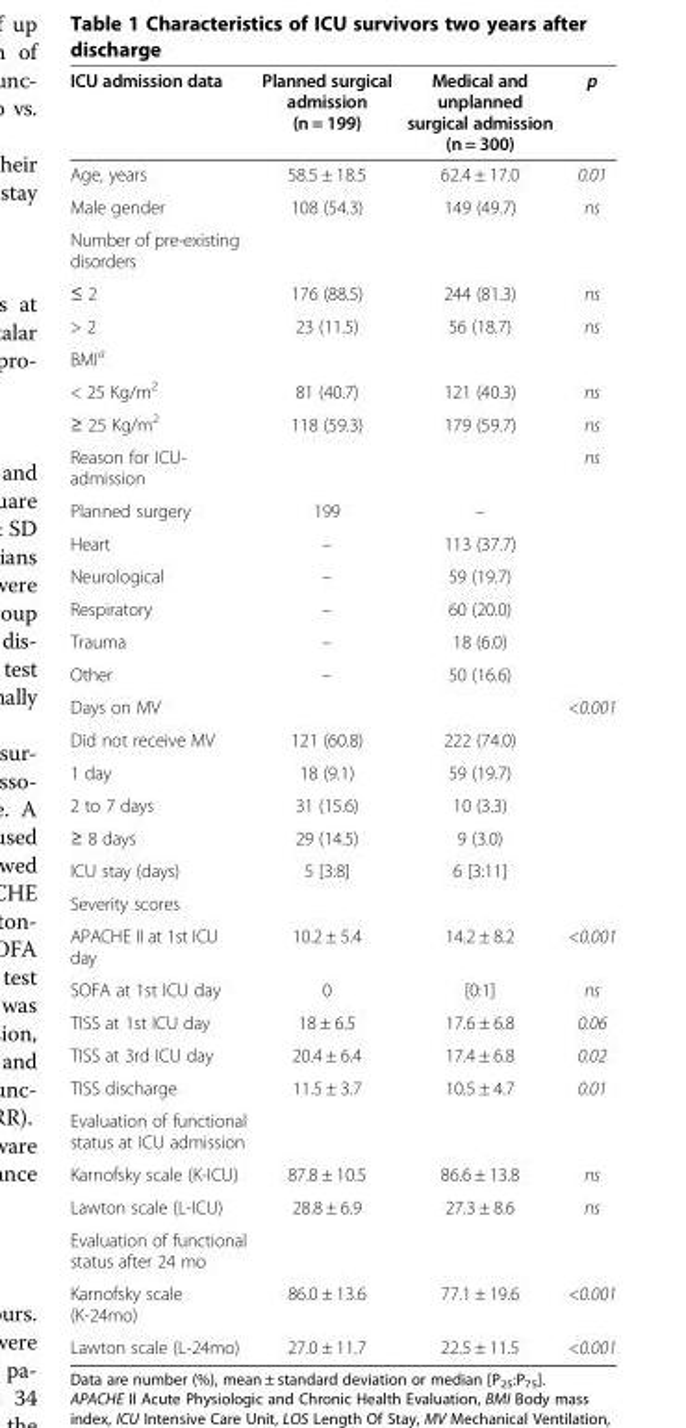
<table><thead><tr><td>ICU admission data</td><td>Planned surgical admission (n = 199)</td><td>Medical and unplanned surgical admission (n = 300)</td><td>p</td></tr></thead><tbody><tr><td>Age, years</td><td>58.5 ± 18.5</td><td>62.4 ± 17.0</td><td>0.01</td></tr><tr><td>Male gender</td><td>108 (54.3)</td><td>149 (49.7)</td><td>ns</td></tr><tr><td colspan="4">Number of pre-existing disorders</td></tr><tr><td>≤ 2</td><td>176 (88.5)</td><td>244 (81.3)</td><td>ns</td></tr><tr><td>&gt; 2</td><td>23 (11.5)</td><td>56 (18.7)</td><td>ns</td></tr><tr><td colspan="4">BMI<sup>a</sup></td></tr><tr><td>&lt; 25 Kg/m<sup>2</sup></td><td>81 (40.7)</td><td>121 (40.3)</td><td>ns</td></tr><tr><td>≥ 25 Kg/m<sup>2</sup></td><td>118 (59.3)</td><td>179 (59.7)</td><td>ns</td></tr><tr><td>Reason for ICU- admission</td><td></td><td></td><td>ns</td></tr><tr><td>Planned surgery</td><td>199</td><td>–</td><td></td></tr><tr><td>Heart</td><td>–</td><td>113 (37.7)</td><td></td></tr><tr><td>Neurological</td><td>–</td><td>59 (19.7)</td><td></td></tr><tr><td>Respiratory</td><td>–</td><td>60 (20.0)</td><td></td></tr><tr><td>Trauma</td><td>–</td><td>18 (6.0)</td><td></td></tr><tr><td>Other</td><td>–</td><td>50 (16.6)</td><td></td></tr><tr><td>Days on MV</td><td></td><td></td><td>&lt;0.001</td></tr><tr><td>Did not receive MV</td><td>121 (60.8)</td><td>222 (74.0)</td><td></td></tr><tr><td>1 day</td><td>18 (9.1)</td><td>59 (19.7)</td><td></td></tr><tr><td>2 to 7 days</td><td>31 (15.6)</td><td>10 (3.3)</td><td></td></tr><tr><td>≥ 8 days</td><td>29 (14.5)</td><td>9 (3.0)</td><td></td></tr><tr><td>ICU stay (days)</td><td>5 [3:8]</td><td>6 [3:11]</td><td></td></tr><tr><td colspan="4">Severity scores</td></tr><tr><td>APACHE II at 1st ICU day</td><td>10.2 ± 5.4</td><td>14.2 ± 8.2</td><td>&lt;0.001</td></tr><tr><td>SOFA at 1st ICU day</td><td>0</td><td>[0:1]</td><td>ns</td></tr><tr><td>TISS at 1st ICU day</td><td>18 ± 6.5</td><td>17.6 ± 6.8</td><td>0.06</td></tr><tr><td>TISS at 3rd ICU day</td><td>20.4 ± 6.4</td><td>17.4 ± 6.8</td><td>0.02</td></tr><tr><td>TISS discharge</td><td>11.5 ± 3.7</td><td>10.5 ± 4.7</td><td>0.01</td></tr><tr><td colspan="4">Evaluation of functional status at ICU admission</td></tr><tr><td>Karnofsky scale (K-ICU)</td><td>87.8 ± 10.5</td><td>86.6 ± 13.8</td><td>ns</td></tr><tr><td>Lawton scale (L-ICU)</td><td>28.8 ± 6.9</td><td>27.3 ± 8.6</td><td>ns</td></tr><tr><td colspan="4">Evaluation of functional status after 24 mo</td></tr><tr><td>Karnofsky scale (K-24mo)</td><td>86.0 ± 13.6</td><td>77.1 ± 19.6</td><td>&lt;0.001</td></tr><tr><td>Lawton scale (L-24mo)</td><td>27.0 ± 11.7</td><td>22.5 ± 11.5</td><td>&lt;0.001</td></tr></tbody></table>